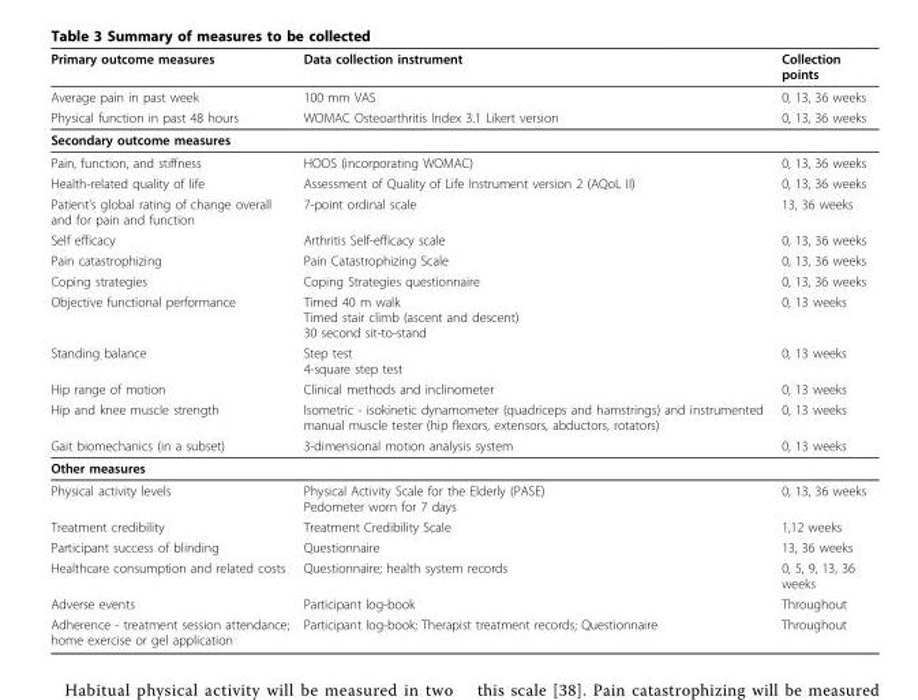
<table><thead><tr><td>Primary outcome measures</td><td>Data collection instrument</td><td>Collection points</td></tr></thead><tbody><tr><td>Average pain in past week</td><td>100 mm VAS</td><td>0, 13, 36 weeks</td></tr><tr><td>Physical function in past 48 hours</td><td>WOMAC Osteoarthritis Index 3.1 Likert version</td><td>0, 13, 36 weeks</td></tr><tr><td colspan="3">Secondary outcome measures</td></tr><tr><td>Pain, function, and stiffness</td><td>HOOS (incorporating WOMAC)</td><td>0, 13, 36 weeks</td></tr><tr><td>Health-related quality of life</td><td>Assessment of Quality of Life Instrument version 2 (AQoL II)</td><td>0, 13, 36 weeks</td></tr><tr><td>Patient’s global rating of change overall and for pain and function</td><td>7-point ordinal scale</td><td>13, 36 weeks</td></tr><tr><td>Self efficacy</td><td>Arthritis Self-efficacy scale</td><td>0, 13, 36 weeks</td></tr><tr><td>Pain catastrophizing</td><td>Pain Catastrophizing Scale</td><td>0, 13, 36 weeks</td></tr><tr><td>Coping strategies</td><td>Coping Strategies questionnaire</td><td>0, 13, 36 weeks</td></tr><tr><td>Objective functional performance</td><td>Timed 40 m walk Timed stair climb (ascent and descent) 30 second sit-to-stand</td><td>0, 13 weeks</td></tr><tr><td>Standing balance</td><td>Step test 4-square step test</td><td>0, 13 weeks</td></tr><tr><td>Hip range of motion</td><td>Clinical methods and inclinometer</td><td>0, 13 weeks</td></tr><tr><td>Hip and knee muscle strength</td><td>Isometric - isokinetic dynamometer (quadriceps and hamstrings) and instrumented manual muscle tester (hip flexors, extensors, abductors, rotators)</td><td>0, 13 weeks</td></tr><tr><td>Gait biomechanics (in a subset)</td><td>3-dimensional motion analysis system</td><td>0, 13 weeks</td></tr><tr><td colspan="3">Other measures</td></tr><tr><td>Physical activity levels</td><td>Physical Activity Scale for the Elderly (PASE) Pedometer worn for 7 days</td><td>0, 13, 36 weeks</td></tr><tr><td>Treatment credibility</td><td>Treatment Credibility Scale</td><td>1,12 weeks</td></tr><tr><td>Participant success of blinding</td><td>Questionnaire</td><td>13, 36 weeks</td></tr><tr><td>Healthcare consumption and related costs</td><td>Questionnaire; health system records</td><td>0, 5, 9, 13, 36 weeks</td></tr><tr><td>Adverse events</td><td>Participant log-book</td><td>Throughout</td></tr><tr><td>Adherence - treatment session attendance; home exercise or gel application</td><td>Participant log-book; Therapist treatment records; Questionnaire</td><td>Throughout</td></tr></tbody></table>